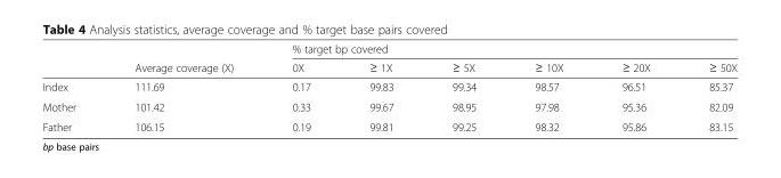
<table><thead><tr><td rowspan="2"></td><td rowspan="2">Average coverage (X)</td><td colspan="6">% target bp covered</td></tr><tr><td>0X</td><td>≥ 1X</td><td>≥ 5X</td><td>≥ 10X</td><td>≥ 20X</td><td>≥ 50X</td></tr></thead><tbody><tr><td>Index</td><td>111.69</td><td>0.17</td><td>99.83</td><td>99.34</td><td>98.57</td><td>96.51</td><td>85.37</td></tr><tr><td>Mother</td><td>101.42</td><td>0.33</td><td>99.67</td><td>98.95</td><td>97.98</td><td>95.36</td><td>82.09</td></tr><tr><td>Father</td><td>106.15</td><td>0.19</td><td>99.81</td><td>99.25</td><td>98.32</td><td>95.86</td><td>83.15</td></tr></tbody></table>